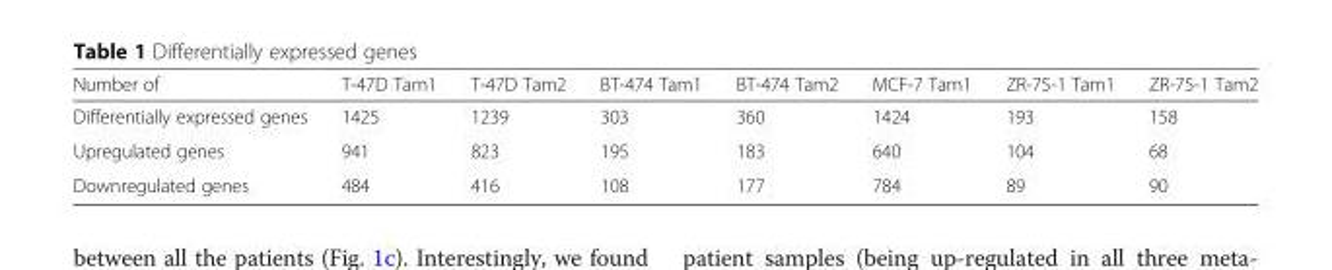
<table><thead><tr><td>Number of</td><td>T-47D Tam1</td><td>T-47D Tam2</td><td>BT-474 Tam1</td><td>BT-474 Tam2</td><td>MCF-7 Tam1</td><td>ZR-75-1 Tam1</td><td>ZR-75-1 Tam2</td></tr></thead><tbody><tr><td>Differentially expressed genes</td><td>1425</td><td>1239</td><td>303</td><td>360</td><td>1424</td><td>193</td><td>158</td></tr><tr><td>Upregulated genes</td><td>941</td><td>823</td><td>195</td><td>183</td><td>640</td><td>104</td><td>68</td></tr><tr><td>Downregulated genes</td><td>484</td><td>416</td><td>108</td><td>177</td><td>784</td><td>89</td><td>90</td></tr></tbody></table>